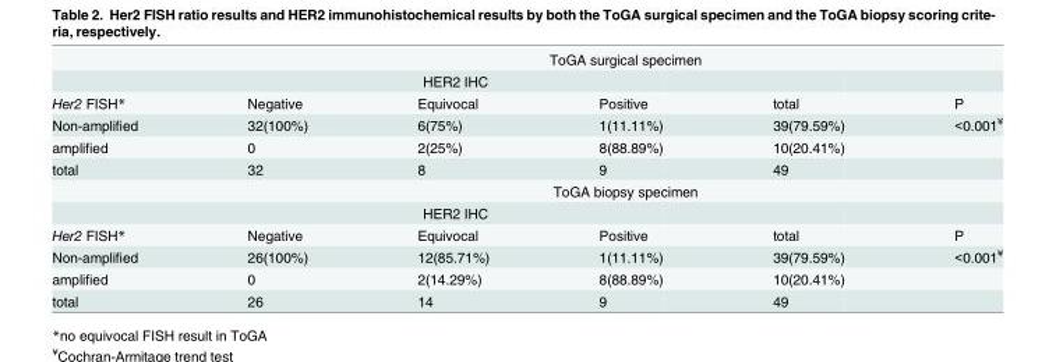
<table><thead><tr><td rowspan="3">Her2 FISH*</td><td colspan="5">ToGA surgical specimen</td></tr><tr><td colspan="3">HER2 IHC</td><td rowspan="2">total</td><td rowspan="2">P</td></tr><tr><td>Negative</td><td>Equivocal</td><td>Positive</td></tr></thead><tbody><tr><td>Non-amplified</td><td>32(100%)</td><td>6(75%)</td><td>1(11.11%)</td><td>39(79.59%)</td><td>&lt;0.001<sup>¥</sup></td></tr><tr><td>amplified</td><td>0</td><td>2(25%)</td><td>8(88.89%)</td><td>10(20.41%)</td><td></td></tr><tr><td rowspan="3">total</td><td>32</td><td>8</td><td>9</td><td>49</td><td></td></tr><tr><td colspan="5">ToGA biopsy specimen</td></tr><tr><td colspan="3">HER2 IHC</td><td></td><td></td></tr><tr><td>Her2 FISH*</td><td>Negative</td><td>Equivocal</td><td>Positive</td><td>total</td><td>P</td></tr><tr><td>Non-amplified</td><td>26(100%)</td><td>12(85.71%)</td><td>1(11.11%)</td><td>39(79.59%)</td><td>&lt;0.001<sup>¥</sup></td></tr><tr><td>amplified</td><td>0</td><td>2(14.29%)</td><td>8(88.89%)</td><td>10(20.41%)</td><td></td></tr><tr><td>total</td><td>26</td><td>14</td><td>9</td><td>49</td><td></td></tr></tbody></table>